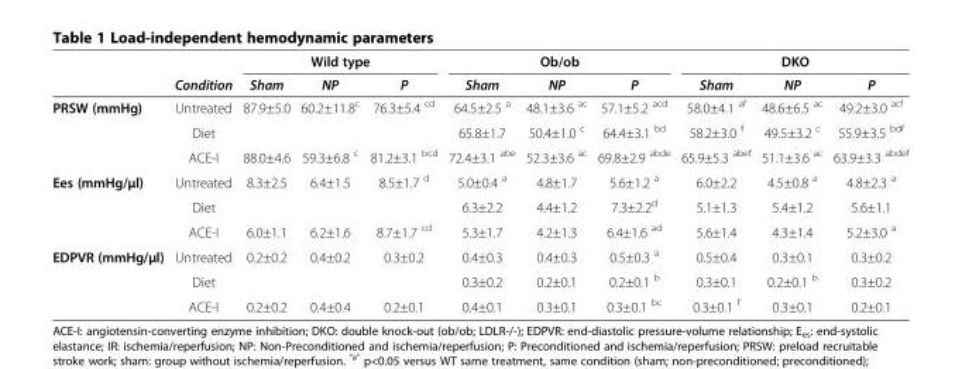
<table><thead><tr><td rowspan="2"></td><td rowspan="2">Condition</td><td colspan="3">Wild type</td><td colspan="3">Ob/ob</td><td colspan="3">DKO</td></tr><tr><td>Sham</td><td>NP</td><td>P</td><td>Sham</td><td>NP</td><td>P</td><td>Sham</td><td>NP</td><td>P</td></tr></thead><tbody><tr><td rowspan="3">PRSW (mmHg)</td><td>Untreated</td><td>87.9±5.0</td><td>60.2±11.8<sup>c</sup></td><td>76.3±5.4 <sup>cd</sup></td><td>64.5±2.5 <sup>a</sup></td><td>48.1±3.6 <sup>ac</sup></td><td>57.1±5.2 <sup>acd</sup></td><td>58.0±4.1 <sup>af</sup></td><td>48.6±6.5 <sup>ac</sup></td><td>49.2±3.0 <sup>acf</sup></td></tr><tr><td>Diet</td><td></td><td></td><td></td><td>65.8±1.7</td><td>50.4±1.0 <sup>c</sup></td><td>64.4±3.1 <sup>bd</sup></td><td>58.2±3.0 <sup>f</sup></td><td>49.5±3.2 <sup>c</sup></td><td>55.9±3.5 <sup>bdf</sup></td></tr><tr><td>ACE-I</td><td>88.0±4.6</td><td>59.3±6.8 <sup>c</sup></td><td>81.2±3.1 <sup>bcd</sup></td><td>72.4±3.1 <sup>abe</sup></td><td>52.3±3.6 <sup>ac</sup></td><td>69.8±2.9 <sup>abde</sup></td><td>65.9±5.3 <sup>abef</sup></td><td>51.1±3.6 <sup>ac</sup></td><td>63.9±3.3 <sup>abdef</sup></td></tr><tr><td rowspan="3">Ees (mmHg/μl)</td><td>Untreated</td><td>8.3±2.5</td><td>6.4±1.5</td><td>8.5±1.7 <sup>d</sup></td><td>5.0±0.4 <sup>a</sup></td><td>4.8±1.7</td><td>5.6±1.2 <sup>a</sup></td><td>6.0±2.2</td><td>4.5±0.8 <sup>a</sup></td><td>4.8±2.3 <sup>a</sup></td></tr><tr><td>Diet</td><td></td><td></td><td></td><td>6.3±2.2</td><td>4.4±1.2</td><td>7.3±2.2<sup>d</sup></td><td>5.1±1.3</td><td>5.4±1.2</td><td>5.6±1.1</td></tr><tr><td>ACE-I</td><td>6.0±1.1</td><td>6.2±1.6</td><td>8.7±1.7 <sup>cd</sup></td><td>5.3±1.7</td><td>4.2±1.3</td><td>6.4±1.6 <sup>ad</sup></td><td>5.6±1.4</td><td>4.3±1.4</td><td>5.2±3.0 <sup>a</sup></td></tr><tr><td rowspan="3">EDPVR (mmHg/μl)</td><td>Untreated</td><td>0.2±0.2</td><td>0.4±0.2</td><td>0.3±0.2</td><td>0.4±0.3</td><td>0.4±0.3</td><td>0.5±0.3 <sup>a</sup></td><td>0.5±0.4</td><td>0.3±0.1</td><td>0.3±0.2</td></tr><tr><td>Diet</td><td></td><td></td><td></td><td>0.3±0.2</td><td>0.2±0.1</td><td>0.2±0.1 <sup>b</sup></td><td>0.3±0.1</td><td>0.2±0.1 <sup>b</sup></td><td>0.3±0.2</td></tr><tr><td>ACE-I</td><td>0.2±0.2</td><td>0.4±0.4</td><td>0.2±0.1</td><td>0.4±0.1</td><td>0.3±0.1</td><td>0.3±0.1 <sup>bc</sup></td><td>0.3±0.1 <sup>f</sup></td><td>0.3±0.1</td><td>0.2±0.1</td></tr></tbody></table>